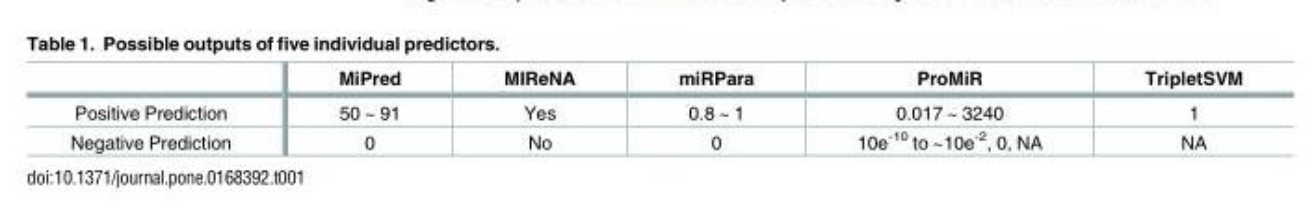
<table><thead><tr><td></td><td>MiPred</td><td>MIReNA</td><td>miRPara</td><td>ProMiR</td><td>TripletSVM</td></tr></thead><tbody><tr><td>Positive Prediction</td><td>50 ~ 91</td><td>Yes</td><td>0.8 ~ 1</td><td>0.017 ~ 3240</td><td>1</td></tr><tr><td>Negative Prediction</td><td>0</td><td>No</td><td>0</td><td>10e<sup>-10</sup> to ~10e<sup>-2</sup>, 0, NA</td><td>NA</td></tr></tbody></table>